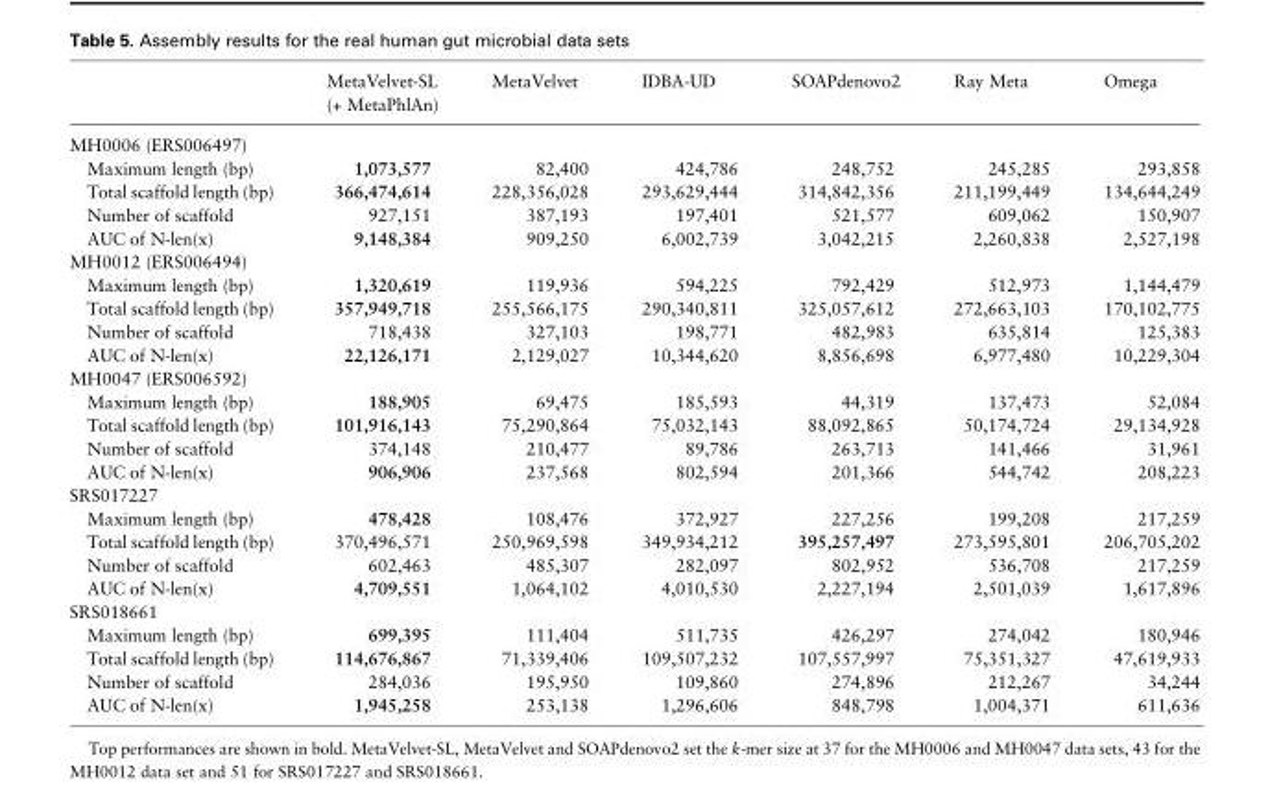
<table><thead><tr><td></td><td>MetaVelvet-SL (+ MetaPhlAn)</td><td>MetaVelvet</td><td>IDBA-UD</td><td>SOAPdenovo2</td><td>Ray Meta</td><td>Omega</td></tr></thead><tbody><tr><td colspan="7">MH0006 (ERS006497)</td></tr><tr><td>Maximum length (bp)</td><td>1,073,577</td><td>82,400</td><td>424,786</td><td>248,752</td><td>245,285</td><td>293,858</td></tr><tr><td>Total scaffold length (bp)</td><td>366,474,614</td><td>228,356,028</td><td>293,629,444</td><td>314,842,356</td><td>211,199,449</td><td>134,644,249</td></tr><tr><td>Number of scaffold</td><td>927,151</td><td>387,193</td><td>197,401</td><td>521,577</td><td>609,062</td><td>150,907</td></tr><tr><td>AUC of N-len(x)</td><td>9,148,384</td><td>909,250</td><td>6,002,739</td><td>3,042,215</td><td>2,260,838</td><td>2,527,198</td></tr><tr><td colspan="7">MH0012 (ERS006494)</td></tr><tr><td>Maximum length (bp)</td><td>1,320,619</td><td>119,936</td><td>594,225</td><td>792,429</td><td>512,973</td><td>1,144,479</td></tr><tr><td>Total scaffold length (bp)</td><td>357,949,718</td><td>255,566,175</td><td>290,340,811</td><td>325,057,612</td><td>272,663,103</td><td>170,102,775</td></tr><tr><td>Number of scaffold</td><td>718,438</td><td>327,103</td><td>198,771</td><td>482,983</td><td>635,814</td><td>125,383</td></tr><tr><td>AUC of N-len(x)</td><td>22,126,171</td><td>2,129,027</td><td>10,344,620</td><td>8,856,698</td><td>6,977,480</td><td>10,229,304</td></tr><tr><td colspan="7">MH0047 (ERS006592)</td></tr><tr><td>Maximum length (bp)</td><td>188,905</td><td>69,475</td><td>185,593</td><td>44,319</td><td>137,473</td><td>52,084</td></tr><tr><td>Total scaffold length (bp)</td><td>101,916,143</td><td>75,290,864</td><td>75,032,143</td><td>88,092,865</td><td>50,174,724</td><td>29,134,928</td></tr><tr><td>Number of scaffold</td><td>374,148</td><td>210,477</td><td>89,786</td><td>263,713</td><td>141,466</td><td>31,961</td></tr><tr><td>AUC of N-len(x)</td><td>906,906</td><td>237,568</td><td>802,594</td><td>201,366</td><td>544,742</td><td>208,223</td></tr><tr><td colspan="7">SRS017227</td></tr><tr><td>Maximum length (bp)</td><td>478,428</td><td>108,476</td><td>372,927</td><td>227,256</td><td>199,208</td><td>217,259</td></tr><tr><td>Total scaffold length (bp)</td><td>370,496,571</td><td>250,969,598</td><td>349,934,212</td><td>395,257,497</td><td>273,595,801</td><td>206,705,202</td></tr><tr><td>Number of scaffold</td><td>602,463</td><td>485,307</td><td>282,097</td><td>802,952</td><td>536,708</td><td>217,259</td></tr><tr><td>AUC of N-len(x)</td><td>4,709,551</td><td>1,064,102</td><td>4,010,530</td><td>2,227,194</td><td>2,501,039</td><td>1,617,896</td></tr><tr><td colspan="7">SRS018661</td></tr><tr><td>Maximum length (bp)</td><td>699,395</td><td>111,404</td><td>511,735</td><td>426,297</td><td>274,042</td><td>180,946</td></tr><tr><td>Total scaffold length (bp)</td><td>114,676,867</td><td>71,339,406</td><td>109,507,232</td><td>107,557,997</td><td>75,351,327</td><td>47,619,933</td></tr><tr><td>Number of scaffold</td><td>284,036</td><td>195,950</td><td>109,860</td><td>274,896</td><td>212,267</td><td>34,244</td></tr><tr><td>AUC of N-len(x)</td><td>1,945,258</td><td>253,138</td><td>1,296,606</td><td>848,798</td><td>1,004,371</td><td>611,636</td></tr></tbody></table>